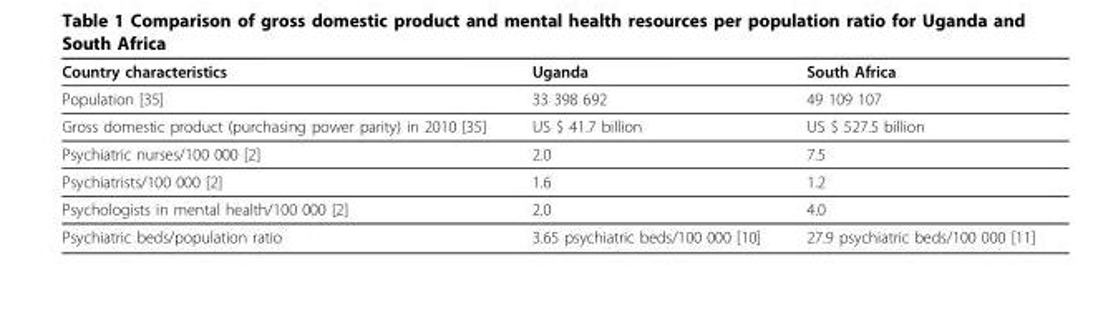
<table><thead><tr><td>Country characteristics</td><td>Uganda</td><td>South Africa</td></tr></thead><tbody><tr><td>Population [35]</td><td>33 398 692</td><td>49 109 107</td></tr><tr><td>Gross domestic product (purchasing power parity) in 2010 [35]</td><td>US $ 41.7 billion</td><td>US $ 527.5 billion</td></tr><tr><td>Psychiatric nurses/100 000 [2]</td><td>2.0</td><td>7.5</td></tr><tr><td>Psychiatrists/100 000 [2]</td><td>1.6</td><td>1.2</td></tr><tr><td>Psychologists in mental health/100 000 [2]</td><td>2.0</td><td>4.0</td></tr><tr><td>Psychiatric beds/population ratio</td><td>3.65 psychiatric beds/100 000 [10]</td><td>27.9 psychiatric beds/100 000 [11]</td></tr></tbody></table>